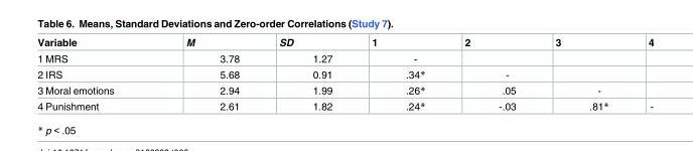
<table><thead><tr><td>Variable</td><td>M</td><td>SD</td><td>1</td><td>2</td><td>3</td><td>4</td></tr></thead><tbody><tr><td>1 MRS</td><td>3.78</td><td>1.27</td><td>-</td><td></td><td></td><td></td></tr><tr><td>2 IRS</td><td>5.68</td><td>0.91</td><td>.34*</td><td>-</td><td></td><td></td></tr><tr><td>3 Moral emotions</td><td>2.94</td><td>1.99</td><td>.26*</td><td>.05</td><td>-</td><td></td></tr><tr><td>4 Punishment</td><td>2.61</td><td>1.82</td><td>.24*</td><td>-.03</td><td>.81*</td><td>-</td></tr></tbody></table>